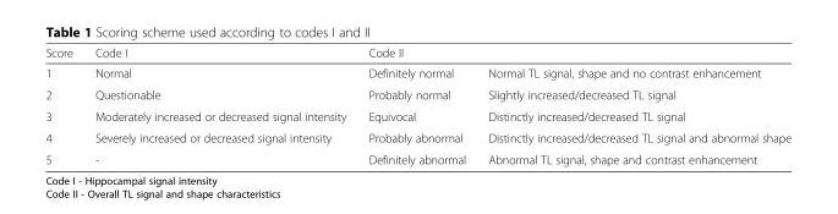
<table><thead><tr><td rowspan="2">Score 1</td><td rowspan="2">Code I Normal</td><td colspan="2">Code II</td></tr><tr><td>Definitely normal</td><td>Normal TL signal, shape and no contrast enhancement</td></tr></thead><tbody><tr><td>2</td><td>Questionable</td><td>Probably normal</td><td>Slightly increased/decreased TL signal</td></tr><tr><td>3</td><td>Moderately increased or decreased signal intensity</td><td>Equivocal</td><td>Distinctly increased/decreased TL signal</td></tr><tr><td>4</td><td>Severely increased or decreased signal intensity</td><td>Probably abnormal</td><td>Distinctly increased/decreased TL signal and abnormal shape</td></tr><tr><td>5</td><td>-</td><td>Definitely abnormal</td><td>Abnormal TL signal, shape and contrast enhancement</td></tr></tbody></table>